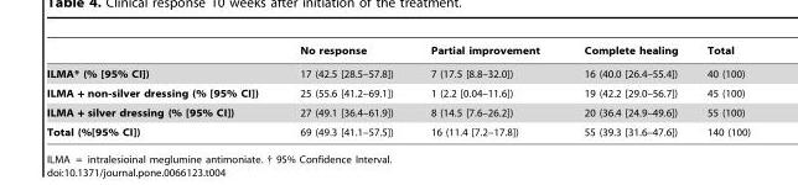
<table><thead><tr><td></td><td>No response</td><td>Partial improvement</td><td>Complete healing</td><td>Total</td></tr></thead><tbody><tr><td>ILMA* (% [95% CI])</td><td>17 (42.5 [28.5–57.8])</td><td>7 (17.5 [8.8–32.0])</td><td>16 (40.0 [26.4–55.4])</td><td>40 (100)</td></tr><tr><td>ILMA + non-silver dressing (% [95% CI])</td><td>25 (55.6 [41.2–69.1])</td><td>1 (2.2 [0.04–11.6])</td><td>19 (42.2 [29.0–56.7])</td><td>45 (100)</td></tr><tr><td>ILMA + silver dressing (% [95% CI])</td><td>27 (49.1 [36.4–61.9])</td><td>8 (14.5 [7.6–26.2])</td><td>20 (36.4 [24.9–49.6])</td><td>55 (100)</td></tr><tr><td>Total (%[95% CI])</td><td>69 (49.3 [41.1–57.5])</td><td>16 (11.4 [7.2–17.8])</td><td>55 (39.3 [31.6–47.6])</td><td>140 (100)</td></tr></tbody></table>